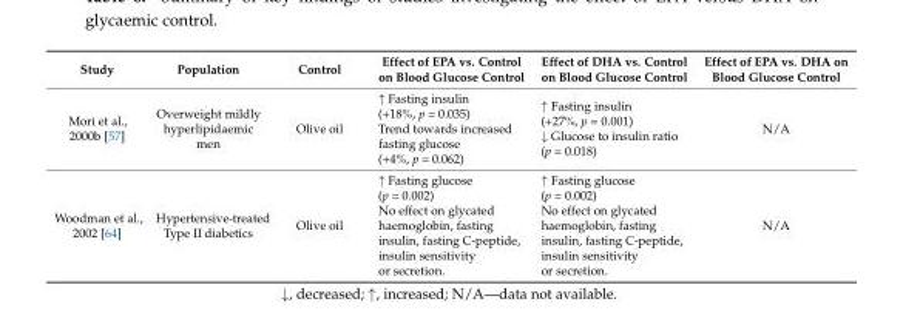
<table><thead><tr><td>Study</td><td>Population</td><td>Control</td><td>Effect of EPA vs. Control on Blood Glucose Control</td><td>Effect of DHA vs. Control on Blood Glucose Control</td><td>Effect of EPA vs. DHA on Blood Glucose Control</td></tr></thead><tbody><tr><td>Mori et al., 2000b [57]</td><td>Overweight mildly hyperlipidaemic men</td><td>Olive oil</td><td>↑ Fasting insulin (+18%, p = 0.035) Trend towards increased fasting glucose (+4%, p = 0.062)</td><td>↑ Fasting insulin (+27%, p = 0.001) ↓ Glucose to insulin ratio (p = 0.018)</td><td>N/A</td></tr><tr><td>Woodman et al., 2002 [64]</td><td>Hypertensive-treated Type II diabetics</td><td>Olive oil</td><td>↑ Fasting glucose (p = 0.002) No effect on glycated haemoglobin, fasting insulin, fasting C-peptide, insulin sensitivity or secretion.</td><td>↑ Fasting glucose (p = 0.002) No effect on glycated haemoglobin, fasting insulin, fasting C-peptide, insulin sensitivity or secretion.</td><td>N/A</td></tr></tbody></table>